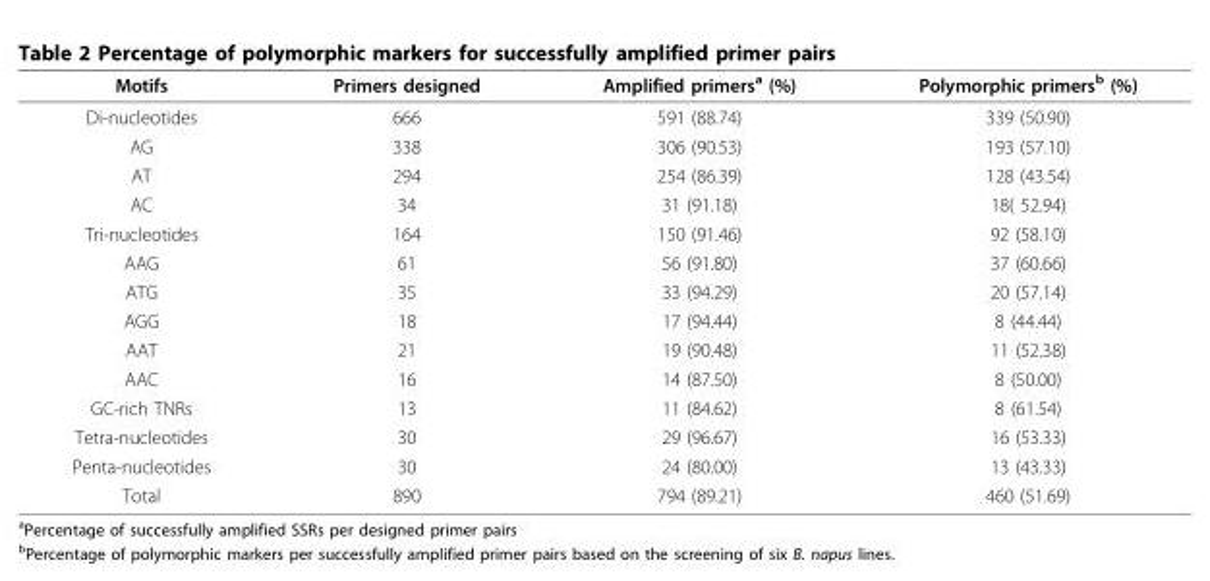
<table><thead><tr><td>Motifs</td><td>Primers designed</td><td>Amplified primers<sup>a</sup> (%)</td><td>Polymorphic primers<sup>b</sup> (%)</td></tr></thead><tbody><tr><td>Di-nucleotides</td><td>666</td><td>591 (88.74)</td><td>339 (50.90)</td></tr><tr><td>AG</td><td>338</td><td>306 (90.53)</td><td>193 (57.10)</td></tr><tr><td>AT</td><td>294</td><td>254 (86.39)</td><td>128 (43.54)</td></tr><tr><td>AC</td><td>34</td><td>31 (91.18)</td><td>18( 52.94)</td></tr><tr><td>Tri-nucleotides</td><td>164</td><td>150 (91.46)</td><td>92 (58.10)</td></tr><tr><td>AAG</td><td>61</td><td>56 (91.80)</td><td>37 (60.66)</td></tr><tr><td>ATG</td><td>35</td><td>33 (94.29)</td><td>20 (57.14)</td></tr><tr><td>AGG</td><td>18</td><td>17 (94.44)</td><td>8 (44.44)</td></tr><tr><td>AAT</td><td>21</td><td>19 (90.48)</td><td>11 (52.38)</td></tr><tr><td>AAC</td><td>16</td><td>14 (87.50)</td><td>8 (50.00)</td></tr><tr><td>GC-rich TNRs</td><td>13</td><td>11 (84.62)</td><td>8 (61.54)</td></tr><tr><td>Tetra-nucleotides</td><td>30</td><td>29 (96.67)</td><td>16 (53.33)</td></tr><tr><td>Penta-nucleotides</td><td>30</td><td>24 (80.00)</td><td>13 (43.33)</td></tr><tr><td>Total</td><td>890</td><td>794 (89.21)</td><td>460 (51.69)</td></tr></tbody></table>